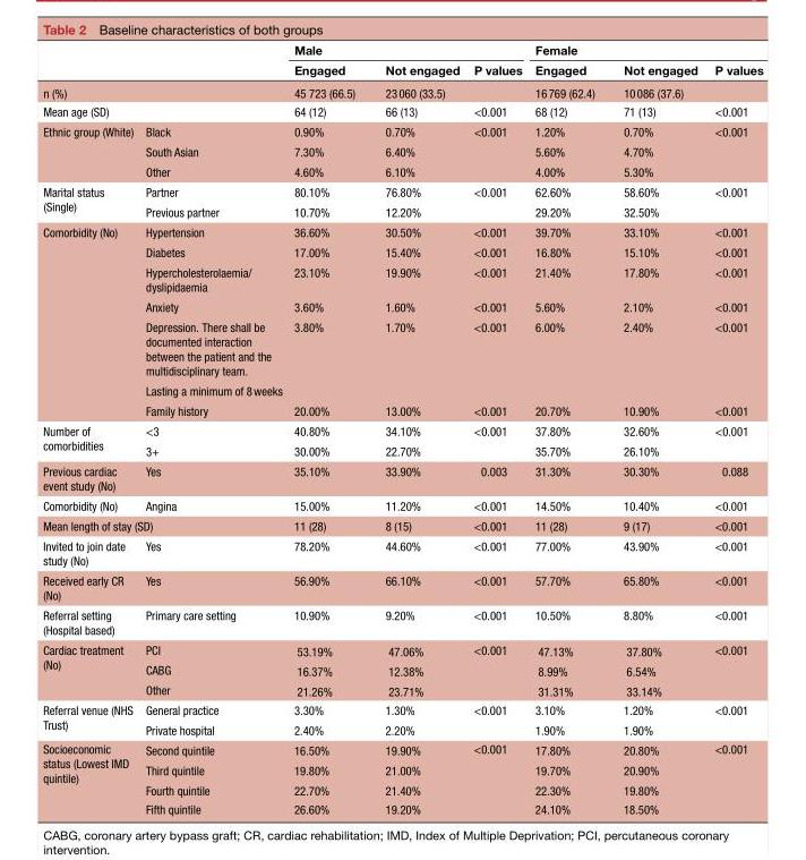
<table><thead><tr><td rowspan="2"></td><td rowspan="2"></td><td colspan="3">Male</td><td colspan="3">Female</td></tr><tr><td>Engaged</td><td>Not engaged</td><td>P values</td><td>Engaged</td><td>Not engaged</td><td>P values</td></tr></thead><tbody><tr><td colspan="2">n (%)</td><td>45 723 (66.5)</td><td>23 060 (33.5)</td><td></td><td>16 769 (62.4)</td><td>10 086 (37.6)</td><td></td></tr><tr><td colspan="2">Mean age (SD)</td><td>64 (12)</td><td>66 (13)</td><td>&lt;0.001</td><td>68 (12)</td><td>71 (13)</td><td>&lt;0.001</td></tr><tr><td rowspan="3">Ethnic group (White)</td><td>Black</td><td>0.90%</td><td>0.70%</td><td rowspan="3">&lt;0.001</td><td>1.20%</td><td>0.70%</td><td rowspan="3">&lt;0.001</td></tr><tr><td>South Asian</td><td>7.30%</td><td>6.40%</td><td>5.60%</td><td>4.70%</td></tr><tr><td>Other</td><td>4.60%</td><td>6.10%</td><td>4.00%</td><td>5.30%</td></tr><tr><td rowspan="2">Marital status (Single)</td><td>Partner</td><td>80.10%</td><td>76.80%</td><td rowspan="2">&lt;0.001</td><td>62.60%</td><td>58.60%</td><td rowspan="2">&lt;0.001</td></tr><tr><td>Previous partner</td><td>10.70%</td><td>12.20%</td><td>29.20%</td><td>32.50%</td></tr><tr><td rowspan="7">Comorbidity (No)</td><td>Hypertension</td><td>36.60%</td><td>30.50%</td><td>&lt;0.001</td><td>39.70%</td><td>33.10%</td><td>&lt;0.001</td></tr><tr><td>Diabetes</td><td>17.00%</td><td>15.40%</td><td>&lt;0.001</td><td>16.80%</td><td>15.10%</td><td>&lt;0.001</td></tr><tr><td>Hypercholesterolaemia/ dyslipidaemia</td><td>23.10%</td><td>19.90%</td><td>&lt;0.001</td><td>21.40%</td><td>17.80%</td><td>&lt;0.001</td></tr><tr><td>Anxiety</td><td>3.60%</td><td>1.60%</td><td>&lt;0.001</td><td>5.60%</td><td>2.10%</td><td>&lt;0.001</td></tr><tr><td>Depression. There shall be documented interaction between the patient and the multidisciplinary team.</td><td rowspan="2">3.80%</td><td rowspan="2">1.70%</td><td rowspan="2">&lt;0.001</td><td rowspan="2">6.00%</td><td rowspan="2">2.40%</td><td rowspan="2">&lt;0.001</td></tr><tr><td>Lasting a minimum of 8 weeks</td></tr><tr><td>Family history</td><td>20.00%</td><td>13.00%</td><td>&lt;0.001</td><td>20.70%</td><td>10.90%</td><td>&lt;0.001</td></tr><tr><td rowspan="2">Number of comorbidities</td><td>&lt;3</td><td>40.80%</td><td>34.10%</td><td rowspan="2">&lt;0.001</td><td>37.80%</td><td>32.60%</td><td rowspan="2">&lt;0.001</td></tr><tr><td>3+</td><td>30.00%</td><td>22.70%</td><td>35.70%</td><td>26.10%</td></tr><tr><td>Previous cardiac event study (No)</td><td>Yes</td><td>35.10%</td><td>33.90%</td><td>0.003</td><td>31.30%</td><td>30.30%</td><td>0.088</td></tr><tr><td>Comorbidity (No)</td><td>Angina</td><td>15.00%</td><td>11.20%</td><td>&lt;0.001</td><td>14.50%</td><td>10.40%</td><td>&lt;0.001</td></tr><tr><td colspan="2">Mean length of stay (SD)</td><td>11 (28)</td><td>8 (15)</td><td>&lt;0.001</td><td>11 (28)</td><td>9 (17)</td><td>&lt;0.001</td></tr><tr><td>Invited to join date study (No)</td><td>Yes</td><td>78.20%</td><td>44.60%</td><td>&lt;0.001</td><td>77.00%</td><td>43.90%</td><td>&lt;0.001</td></tr><tr><td>Received early CR (No)</td><td>Yes</td><td>56.90%</td><td>66.10%</td><td>&lt;0.001</td><td>57.70%</td><td>65.80%</td><td>&lt;0.001</td></tr><tr><td>Referral setting (Hospital based)</td><td>Primary care setting</td><td>10.90%</td><td>9.20%</td><td>&lt;0.001</td><td>10.50%</td><td>8.80%</td><td>&lt;0.001</td></tr><tr><td rowspan="3">Cardiac treatment (No)</td><td>PCI</td><td>53.19%</td><td>47.06%</td><td rowspan="3">&lt;0.001</td><td>47.13%</td><td>37.80%</td><td rowspan="3">&lt;0.001</td></tr><tr><td>CABG</td><td>16.37%</td><td>12.38%</td><td>8.99%</td><td>6.54%</td></tr><tr><td>Other</td><td>21.26%</td><td>23.71%</td><td>31.31%</td><td>33.14%</td></tr><tr><td rowspan="2">Referral venue (NHS Trust)</td><td>General practice</td><td>3.30%</td><td>1.30%</td><td rowspan="2">&lt;0.001</td><td>3.10%</td><td>1.20%</td><td rowspan="2">&lt;0.001</td></tr><tr><td>Private hospital</td><td>2.40%</td><td>2.20%</td><td>1.90%</td><td>1.90%</td></tr><tr><td rowspan="4">Socioeconomic status (Lowest IMD quintile)</td><td>Second quintile</td><td>16.50%</td><td>19.90%</td><td rowspan="4">&lt;0.001</td><td>17.80%</td><td>20.80%</td><td rowspan="4">&lt;0.001</td></tr><tr><td>Third quintile</td><td>19.80%</td><td>21.00%</td><td>19.70%</td><td>20.90%</td></tr><tr><td>Fourth quintile</td><td>22.70%</td><td>21.40%</td><td>22.30%</td><td>19.80%</td></tr><tr><td>Fifth quintile</td><td>26.60%</td><td>19.20%</td><td>24.10%</td><td>18.50%</td></tr></tbody></table>